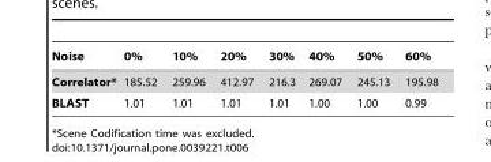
<table><thead><tr><td>Noise</td><td>0%</td><td>10%</td><td>20%</td><td>30%</td><td>40%</td><td>50%</td><td>60%</td></tr></thead><tbody><tr><td>Correlator*</td><td>185.52</td><td>259.96</td><td>412.97</td><td>216.3</td><td>269.07</td><td>245.13</td><td>195.98</td></tr><tr><td>BLAST</td><td>1.01</td><td>1.01</td><td>1.01</td><td>1.01</td><td>1.00</td><td>1.00</td><td>0.99</td></tr></tbody></table>